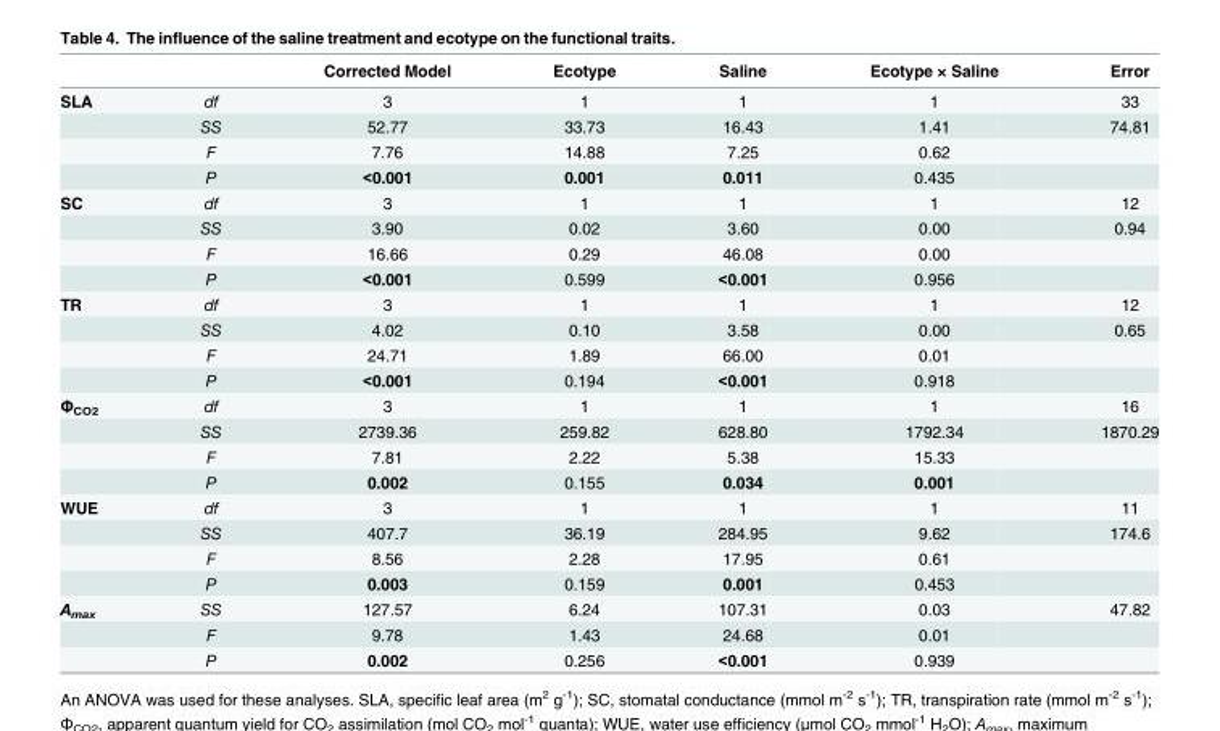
<table><thead><tr><td></td><td></td><td>Corrected Model</td><td>Ecotype</td><td>Saline</td><td>Ecotype × Saline</td><td>Error</td></tr></thead><tbody><tr><td rowspan="4">SLA</td><td>df</td><td>3</td><td>1</td><td>1</td><td>1</td><td>33</td></tr><tr><td>SS</td><td>52.77</td><td>33.73</td><td>16.43</td><td>1.41</td><td>74.81</td></tr><tr><td>F</td><td>7.76</td><td>14.88</td><td>7.25</td><td>0.62</td><td></td></tr><tr><td>P</td><td>&lt;0.001</td><td>0.001</td><td>0.011</td><td>0.435</td><td></td></tr><tr><td rowspan="4">SC</td><td>df</td><td>3</td><td>1</td><td>1</td><td>1</td><td>12</td></tr><tr><td>SS</td><td>3.90</td><td>0.02</td><td>3.60</td><td>0.00</td><td>0.94</td></tr><tr><td>F</td><td>16.66</td><td>0.29</td><td>46.08</td><td>0.00</td><td></td></tr><tr><td>P</td><td>&lt;0.001</td><td>0.599</td><td>&lt;0.001</td><td>0.956</td><td></td></tr><tr><td rowspan="4">TR</td><td>df</td><td>3</td><td>1</td><td>1</td><td>1</td><td>12</td></tr><tr><td>SS</td><td>4.02</td><td>0.10</td><td>3.58</td><td>0.00</td><td>0.65</td></tr><tr><td>F</td><td>24.71</td><td>1.89</td><td>66.00</td><td>0.01</td><td></td></tr><tr><td>P</td><td>&lt;0.001</td><td>0.194</td><td>&lt;0.001</td><td>0.918</td><td></td></tr><tr><td rowspan="4">Φ<sub>CO2</sub></td><td>df</td><td>3</td><td>1</td><td>1</td><td>1</td><td>16</td></tr><tr><td>SS</td><td>2739.36</td><td>259.82</td><td>628.80</td><td>1792.34</td><td>1870.29</td></tr><tr><td>F</td><td>7.81</td><td>2.22</td><td>5.38</td><td>15.33</td><td></td></tr><tr><td>P</td><td>0.002</td><td>0.155</td><td>0.034</td><td>0.001</td><td></td></tr><tr><td rowspan="4">WUE</td><td>df</td><td>3</td><td>1</td><td>1</td><td>1</td><td>11</td></tr><tr><td>SS</td><td>407.7</td><td>36.19</td><td>284.95</td><td>9.62</td><td>174.6</td></tr><tr><td>F</td><td>8.56</td><td>2.28</td><td>17.95</td><td>0.61</td><td></td></tr><tr><td>P</td><td>0.003</td><td>0.159</td><td>0.001</td><td>0.453</td><td></td></tr><tr><td rowspan="3">A<sub>max</sub></td><td>SS</td><td>127.57</td><td>6.24</td><td>107.31</td><td>0.03</td><td>47.82</td></tr><tr><td>F</td><td>9.78</td><td>1.43</td><td>24.68</td><td>0.01</td><td></td></tr><tr><td>P</td><td>0.002</td><td>0.256</td><td>&lt;0.001</td><td>0.939</td><td></td></tr></tbody></table>